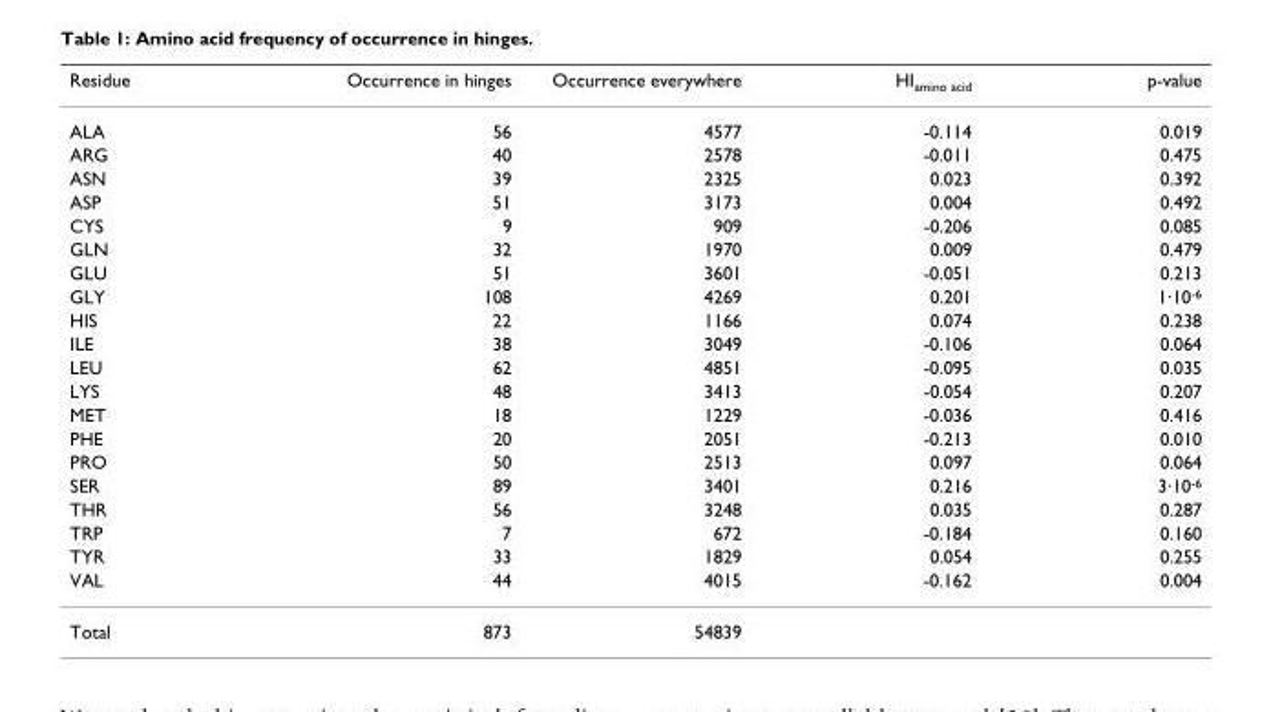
<table><thead><tr><td>Residue</td><td>Occurrence in hinges</td><td>Occurrence everywhere</td><td>HI<sub>amino acid</sub></td><td>p-value</td></tr></thead><tbody><tr><td>ALA</td><td>56</td><td>4577</td><td>-0.114</td><td>0.019</td></tr><tr><td>ARG</td><td>40</td><td>2578</td><td>-0.011</td><td>0.475</td></tr><tr><td>ASN</td><td>39</td><td>2325</td><td>0.023</td><td>0.392</td></tr><tr><td>ASP</td><td>51</td><td>3173</td><td>0.004</td><td>0.492</td></tr><tr><td>CYS</td><td>9</td><td>909</td><td>-0.206</td><td>0.085</td></tr><tr><td>GLN</td><td>32</td><td>1970</td><td>0.009</td><td>0.479</td></tr><tr><td>GLU</td><td>51</td><td>3601</td><td>-0.051</td><td>0.213</td></tr><tr><td>GLY</td><td>108</td><td>4269</td><td>0.201</td><td>1·10<sup>-6</sup></td></tr><tr><td>HIS</td><td>22</td><td>1166</td><td>0.074</td><td>0.238</td></tr><tr><td>ILE</td><td>38</td><td>3049</td><td>-0.106</td><td>0.064</td></tr><tr><td>LEU</td><td>62</td><td>4851</td><td>-0.095</td><td>0.035</td></tr><tr><td>LYS</td><td>48</td><td>3413</td><td>-0.054</td><td>0.207</td></tr><tr><td>MET</td><td>18</td><td>1229</td><td>-0.036</td><td>0.416</td></tr><tr><td>PHE</td><td>20</td><td>2051</td><td>-0.213</td><td>0.010</td></tr><tr><td>PRO</td><td>50</td><td>2513</td><td>0.097</td><td>0.064</td></tr><tr><td>SER</td><td>89</td><td>3401</td><td>0.216</td><td>3·10<sup>-6</sup></td></tr><tr><td>THR</td><td>56</td><td>3248</td><td>0.035</td><td>0.287</td></tr><tr><td>TRP</td><td>7</td><td>672</td><td>-0.184</td><td>0.160</td></tr><tr><td>TYR</td><td>33</td><td>1829</td><td>0.054</td><td>0.255</td></tr><tr><td>VAL</td><td>44</td><td>4015</td><td>-0.162</td><td>0.004</td></tr><tr><td>Total</td><td>873</td><td>54839</td><td></td><td></td></tr></tbody></table>